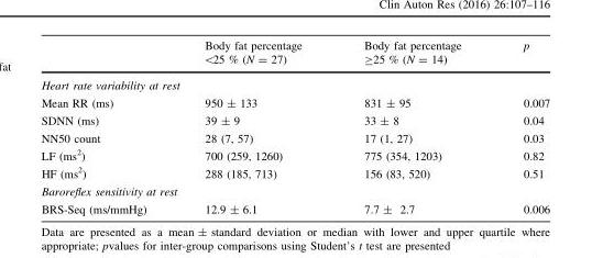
<table><thead><tr><td></td><td>Body fat percentage &lt;25 % (N = 27)</td><td>Body fat percentage ≥25 % (N = 14)</td><td>p</td></tr></thead><tbody><tr><td colspan="4">Heart rate variability at rest</td></tr><tr><td>Mean RR (ms)</td><td>950 ± 133</td><td>831 ± 95</td><td>0.007</td></tr><tr><td>SDNN (ms)</td><td>39 ± 9</td><td>33 ± 8</td><td>0.04</td></tr><tr><td>NN50 count</td><td>28 (7, 57)</td><td>17 (1, 27)</td><td>0.03</td></tr><tr><td>LF (ms<sup>2</sup>)</td><td>700 (259, 1260)</td><td>775 (354, 1203)</td><td>0.82</td></tr><tr><td>HF (ms<sup>2</sup>)</td><td>288 (185, 713)</td><td>156 (83, 520)</td><td>0.51</td></tr><tr><td colspan="4">Baroreflex sensitivity at rest</td></tr><tr><td>BRS-Seq (ms/mmHg)</td><td>12.9 ± 6.1</td><td>7.7 ± 2.7</td><td>0.006</td></tr></tbody></table>